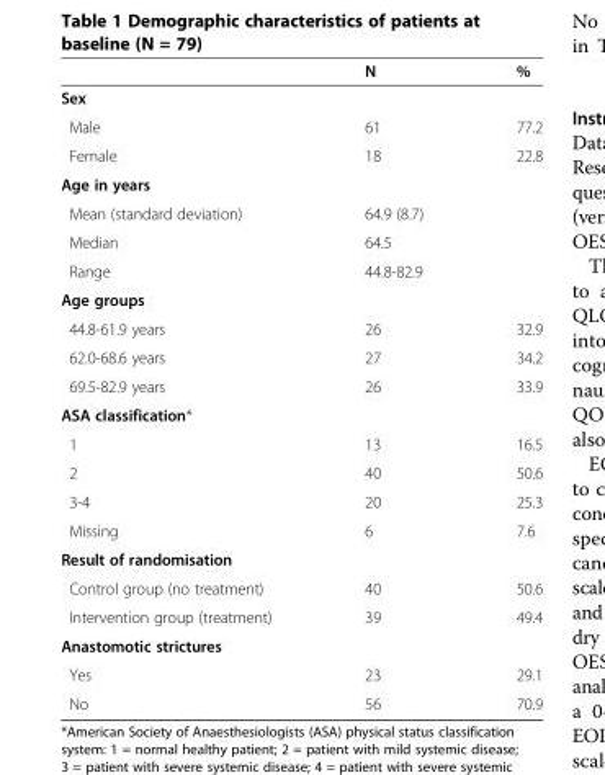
<table><thead><tr><td></td><td>N</td><td>%</td></tr></thead><tbody><tr><td colspan="3">Sex</td></tr><tr><td>Male</td><td>61</td><td>77.2</td></tr><tr><td>Female</td><td>18</td><td>22.8</td></tr><tr><td colspan="3">Age in years</td></tr><tr><td>Mean (standard deviation)</td><td>64.9 (8.7)</td><td></td></tr><tr><td>Median</td><td>64.5</td><td></td></tr><tr><td>Range</td><td>44.8-82.9</td><td></td></tr><tr><td colspan="3">Age groups</td></tr><tr><td>44.8-61.9 years</td><td>26</td><td>32.9</td></tr><tr><td>62.0-68.6 years</td><td>27</td><td>34.2</td></tr><tr><td>69.5-82.9 years</td><td>26</td><td>33.9</td></tr><tr><td colspan="3">ASA classification*</td></tr><tr><td>1</td><td>13</td><td>16.5</td></tr><tr><td>2</td><td>40</td><td>50.6</td></tr><tr><td>3-4</td><td>20</td><td>25.3</td></tr><tr><td>Missing</td><td>6</td><td>7.6</td></tr><tr><td colspan="3">Result of randomisation</td></tr><tr><td>Control group (no treatment)</td><td>40</td><td>50.6</td></tr><tr><td>Intervention group (treatment)</td><td>39</td><td>49.4</td></tr><tr><td colspan="3">Anastomotic strictures</td></tr><tr><td>Yes</td><td>23</td><td>29.1</td></tr><tr><td>No</td><td>56</td><td>70.9</td></tr></tbody></table>